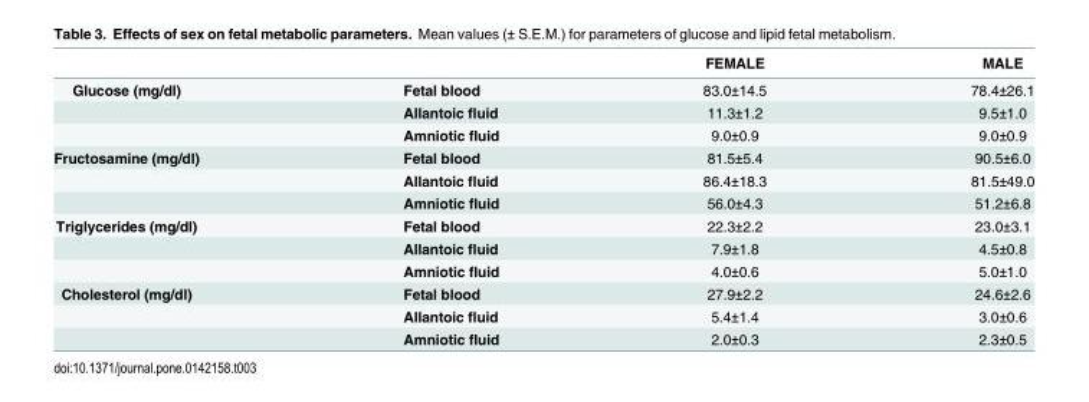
<table><thead><tr><td></td><td></td><td>FEMALE</td><td>MALE</td></tr></thead><tbody><tr><td rowspan="3">Glucose (mg/dl)</td><td>Fetal blood</td><td>83.0±14.5</td><td>78.4±26.1</td></tr><tr><td>Allantoic fluid</td><td>11.3±1.2</td><td>9.5±1.0</td></tr><tr><td>Amniotic fluid</td><td>9.0±0.9</td><td>9.0±0.9</td></tr><tr><td rowspan="3">Fructosamine (mg/dl)</td><td>Fetal blood</td><td>81.5±5.4</td><td>90.5±6.0</td></tr><tr><td>Allantoic fluid</td><td>86.4±18.3</td><td>81.5±49.0</td></tr><tr><td>Amniotic fluid</td><td>56.0±4.3</td><td>51.2±6.8</td></tr><tr><td rowspan="3">Triglycerides (mg/dl)</td><td>Fetal blood</td><td>22.3±2.2</td><td>23.0±3.1</td></tr><tr><td>Allantoic fluid</td><td>7.9±1.8</td><td>4.5±0.8</td></tr><tr><td>Amniotic fluid</td><td>4.0±0.6</td><td>5.0±1.0</td></tr><tr><td rowspan="3">Cholesterol (mg/dl)</td><td>Fetal blood</td><td>27.9±2.2</td><td>24.6±2.6</td></tr><tr><td>Allantoic fluid</td><td>5.4±1.4</td><td>3.0±0.6</td></tr><tr><td>Amniotic fluid</td><td>2.0±0.3</td><td>2.3±0.5</td></tr></tbody></table>